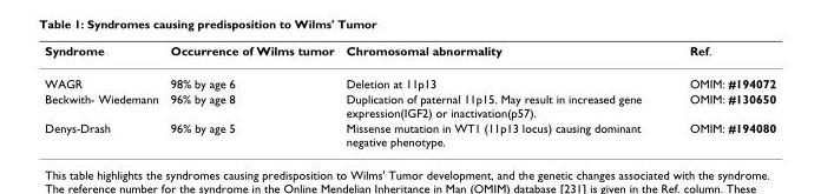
<table><thead><tr><td>Syndrome</td><td>Occurrence of Wilms tumor</td><td>Chromosomal abnormality</td><td>Ref.</td></tr></thead><tbody><tr><td>WAGR</td><td>98% by age 6</td><td>Deletion at 11p13</td><td>OMIM: #194072</td></tr><tr><td>Beckwith- Wiedemann</td><td>96% by age 8</td><td>Duplication of paternal 11p15. May result in increased gene expression(IGF2) or inactivation(p57).</td><td>OMIM: #130650</td></tr><tr><td>Denys-Drash</td><td>96% by age 5</td><td>Missense mutation in WT1 (11p13 locus) causing dominant negative phenotype.</td><td>OMIM: #194080</td></tr></tbody></table>